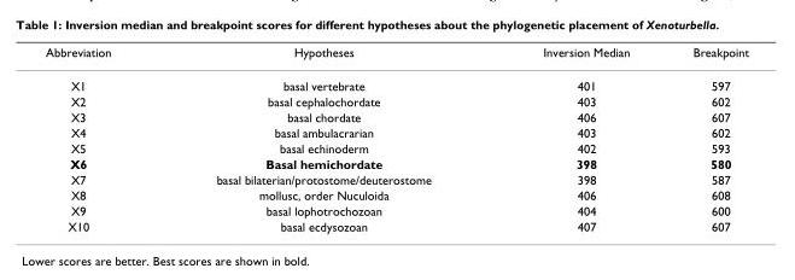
<table><thead><tr><td>Abbreviation</td><td>Hypotheses</td><td>Inversion Median</td><td>Breakpoint</td></tr></thead><tbody><tr><td>X1</td><td>basal vertebrate</td><td>401</td><td>597</td></tr><tr><td>X2</td><td>basal cephalochordate</td><td>403</td><td>602</td></tr><tr><td>X3</td><td>basal chordate</td><td>406</td><td>607</td></tr><tr><td>X4</td><td>basal ambulacrarian</td><td>403</td><td>602</td></tr><tr><td>X5</td><td>basal echinoderm</td><td>402</td><td>593</td></tr><tr><td>X6</td><td>Basal hemichordate</td><td>398</td><td>580</td></tr><tr><td>X7</td><td>basal bilaterian/protostome/deuterostome</td><td>398</td><td>587</td></tr><tr><td>X8</td><td>mollusc, order Nuculoida</td><td>406</td><td>608</td></tr><tr><td>X9</td><td>basal lophotrochozoan</td><td>404</td><td>600</td></tr><tr><td>X10</td><td>basal ecdysozoan</td><td>407</td><td>607</td></tr></tbody></table>